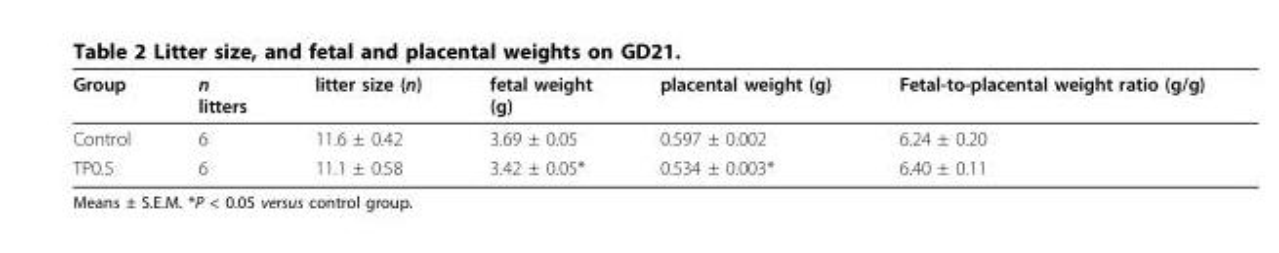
<table><thead><tr><td>Group</td><td>n litters</td><td>litter size (n)</td><td>fetal weight (g)</td><td>placental weight (g)</td><td>Fetal-to-placental weight ratio (g/g)</td></tr></thead><tbody><tr><td>Control</td><td>6</td><td>11.6 ± 0.42</td><td>3.69 ± 0.05</td><td>0.597 ± 0.002</td><td>6.24 ± 0.20</td></tr><tr><td>TP0.5</td><td>6</td><td>11.1 ± 0.58</td><td>3.42 ± 0.05*</td><td>0.534 ± 0.003*</td><td>6.40 ± 0.11</td></tr></tbody></table>